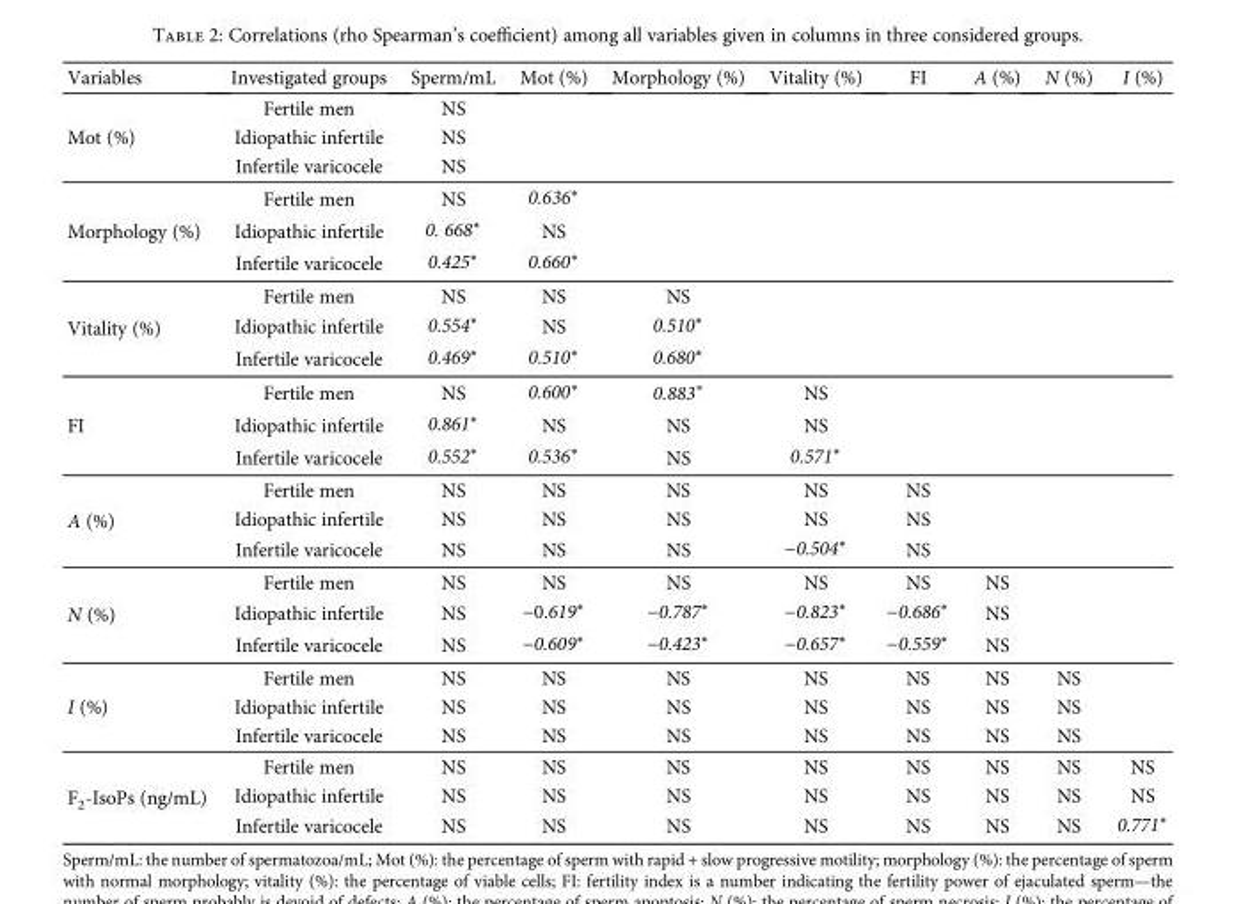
<table><thead><tr><td>Variables</td><td>Investigated groups</td><td>Sperm/mL</td><td>Mot (%)</td><td>Morphology (%)</td><td>Vitality (%)</td><td>FI</td><td>A (%)</td><td>N (%)</td><td>I (%)</td></tr></thead><tbody><tr><td rowspan="3">Mot (%)</td><td>Fertile men</td><td>NS</td><td rowspan="3"></td><td rowspan="3"></td><td rowspan="3"></td><td rowspan="3"></td><td rowspan="3"></td><td rowspan="3"></td><td rowspan="3"></td></tr><tr><td>Idiopathic infertile</td><td>NS</td></tr><tr><td>Infertile varicocele</td><td>NS</td></tr><tr><td rowspan="3">Morphology (%)</td><td>Fertile men</td><td>NS</td><td>0.636∗</td><td rowspan="3"></td><td rowspan="3"></td><td rowspan="3"></td><td rowspan="3"></td><td rowspan="3"></td><td rowspan="3"></td></tr><tr><td>Idiopathic infertile</td><td>0. 668∗</td><td>NS</td></tr><tr><td>Infertile varicocele</td><td>0.425∗</td><td>0.660∗</td></tr><tr><td rowspan="3">Vitality (%)</td><td>Fertile men</td><td>NS</td><td>NS</td><td>NS</td><td rowspan="3"></td><td rowspan="3"></td><td rowspan="3"></td><td rowspan="3"></td><td rowspan="3"></td></tr><tr><td>Idiopathic infertile</td><td>0.554∗</td><td>NS</td><td>0.510∗</td></tr><tr><td>Infertile varicocele</td><td>0.469∗</td><td>0.510∗</td><td>0.680∗</td></tr><tr><td rowspan="3">FI</td><td>Fertile men</td><td>NS</td><td>0.600∗</td><td>0.883∗</td><td>NS</td><td rowspan="3"></td><td rowspan="3"></td><td rowspan="3"></td><td rowspan="3"></td></tr><tr><td>Idiopathic infertile</td><td>0.861∗</td><td>NS</td><td>NS</td><td>NS</td></tr><tr><td>Infertile varicocele</td><td>0.552∗</td><td>0.536∗</td><td>NS</td><td>0.571∗</td></tr><tr><td rowspan="3">A (%)</td><td>Fertile men</td><td>NS</td><td>NS</td><td>NS</td><td>NS</td><td>NS</td><td rowspan="3"></td><td rowspan="3"></td><td rowspan="3"></td></tr><tr><td>Idiopathic infertile</td><td>NS</td><td>NS</td><td>NS</td><td>NS</td><td>NS</td></tr><tr><td>Infertile varicocele</td><td>NS</td><td>NS</td><td>NS</td><td>−0.504∗</td><td>NS</td></tr><tr><td rowspan="3">N (%)</td><td>Fertile men</td><td>NS</td><td>NS</td><td>NS</td><td>NS</td><td>NS</td><td>NS</td><td rowspan="3"></td><td rowspan="3"></td></tr><tr><td>Idiopathic infertile</td><td>NS</td><td>−0.619∗</td><td>−0.787∗</td><td>−0.823∗</td><td>−0.686∗</td><td>NS</td></tr><tr><td>Infertile varicocele</td><td>NS</td><td>−0.609∗</td><td>−0.423∗</td><td>−0.657∗</td><td>−0.559∗</td><td>NS</td></tr><tr><td rowspan="3">I (%)</td><td>Fertile men</td><td>NS</td><td>NS</td><td>NS</td><td>NS</td><td>NS</td><td>NS</td><td>NS</td><td rowspan="3"></td></tr><tr><td>Idiopathic infertile</td><td>NS</td><td>NS</td><td>NS</td><td>NS</td><td>NS</td><td>NS</td><td>NS</td></tr><tr><td>Infertile varicocele</td><td>NS</td><td>NS</td><td>NS</td><td>NS</td><td>NS</td><td>NS</td><td>NS</td></tr><tr><td rowspan="3">F<sub>2</sub>-IsoPs (ng/mL)</td><td>Fertile men</td><td>NS</td><td>NS</td><td>NS</td><td>NS</td><td>NS</td><td>NS</td><td>NS</td><td>NS</td></tr><tr><td>Idiopathic infertile</td><td>NS</td><td>NS</td><td>NS</td><td>NS</td><td>NS</td><td>NS</td><td>NS</td><td>NS</td></tr><tr><td>Infertile varicocele</td><td>NS</td><td>NS</td><td>NS</td><td>NS</td><td>NS</td><td>NS</td><td>NS</td><td>0.771∗</td></tr></tbody></table>